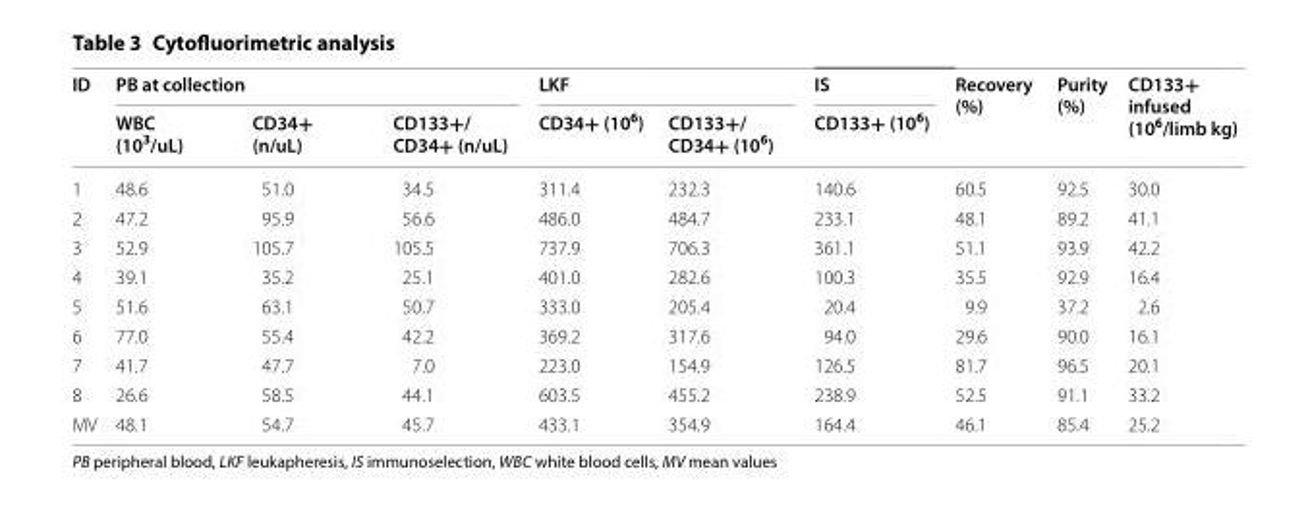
<table><thead><tr><td rowspan="2">ID</td><td colspan="3">PB at collection</td><td colspan="2">LKF</td><td rowspan="2">IS CD133+ (10<sup>6</sup>)</td><td rowspan="2">Recovery (%)</td><td rowspan="2">Purity (%)</td><td rowspan="2">CD133+ infused (10<sup>6</sup>/limb kg)</td></tr><tr><td>WBC (10<sup>3</sup>/uL)</td><td>CD34+ (n/uL)</td><td>CD133+/ CD34+ (n/uL)</td><td>CD34+ (10<sup>6</sup>)</td><td>CD133+/ CD34+ (10<sup>6</sup>)</td></tr></thead><tbody><tr><td>1</td><td>48.6</td><td>51.0</td><td>34.5</td><td>311.4</td><td>232.3</td><td>140.6</td><td>60.5</td><td>92.5</td><td>30.0</td></tr><tr><td>2</td><td>47.2</td><td>95.9</td><td>56.6</td><td>486.0</td><td>484.7</td><td>233.1</td><td>48.1</td><td>89.2</td><td>41.1</td></tr><tr><td>3</td><td>52.9</td><td>105.7</td><td>105.5</td><td>737.9</td><td>706.3</td><td>361.1</td><td>51.1</td><td>93.9</td><td>42.2</td></tr><tr><td>4</td><td>39.1</td><td>35.2</td><td>25.1</td><td>401.0</td><td>282.6</td><td>100.3</td><td>35.5</td><td>92.9</td><td>16.4</td></tr><tr><td>5</td><td>51.6</td><td>63.1</td><td>50.7</td><td>333.0</td><td>205.4</td><td>20.4</td><td>9.9</td><td>37.2</td><td>2.6</td></tr><tr><td>6</td><td>77.0</td><td>55.4</td><td>42.2</td><td>369.2</td><td>317.6</td><td>94.0</td><td>29.6</td><td>90.0</td><td>16.1</td></tr><tr><td>7</td><td>41.7</td><td>47.7</td><td>7.0</td><td>223.0</td><td>154.9</td><td>126.5</td><td>81.7</td><td>96.5</td><td>20.1</td></tr><tr><td>8</td><td>26.6</td><td>58.5</td><td>44.1</td><td>603.5</td><td>455.2</td><td>238.9</td><td>52.5</td><td>91.1</td><td>33.2</td></tr><tr><td>MV</td><td>48.1</td><td>54.7</td><td>45.7</td><td>433.1</td><td>354.9</td><td>164.4</td><td>46.1</td><td>85.4</td><td>25.2</td></tr></tbody></table>